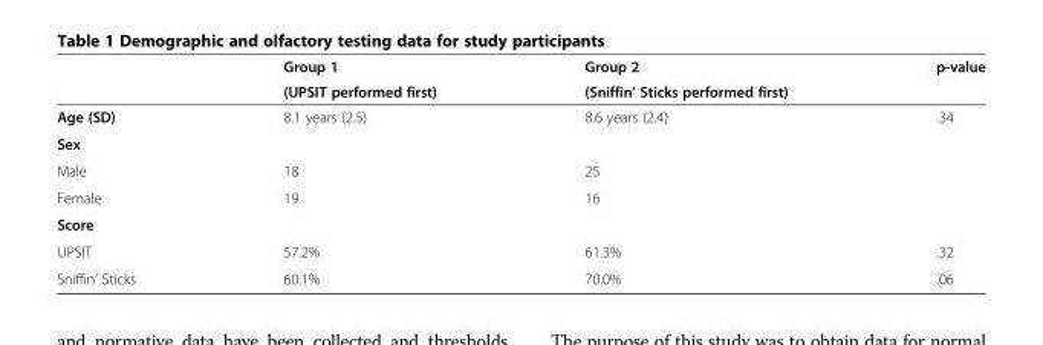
<table><thead><tr><td rowspan="2"></td><td rowspan="2">Group 1 (UPSIT performed first)</td><td rowspan="2">Group 2 (Sniffin’ Sticks performed first)</td><td rowspan="2">p-value</td></tr><tr></tr></thead><tbody><tr><td>Age (SD)</td><td>8.1 years (2.5)</td><td>8.6 years (2.4)</td><td>.34</td></tr><tr><td colspan="4">Sex</td></tr><tr><td>Male</td><td>18</td><td>25</td><td></td></tr><tr><td>Female</td><td>19</td><td>16</td><td></td></tr><tr><td colspan="4">Score</td></tr><tr><td>UPSIT</td><td>57.2%</td><td>61.3%</td><td>.32</td></tr><tr><td>Sniffin’ Sticks</td><td>60.1%</td><td>70.0%</td><td>.06</td></tr></tbody></table>